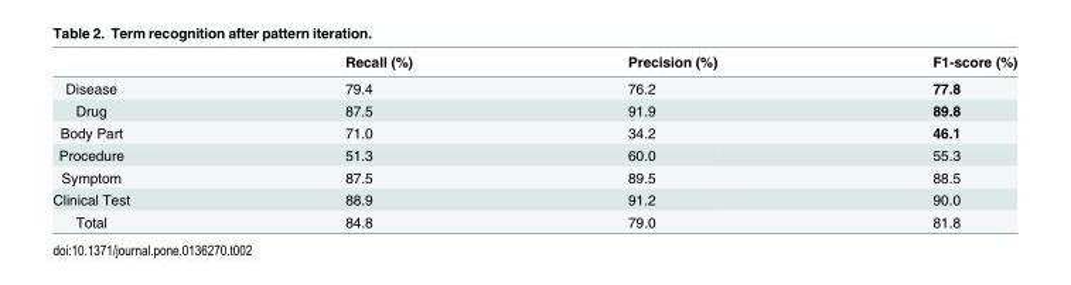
<table><thead><tr><td></td><td>Recall (%)</td><td>Precision (%)</td><td>F1-score (%)</td></tr></thead><tbody><tr><td>Disease</td><td>79.4</td><td>76.2</td><td>77.8</td></tr><tr><td>Drug</td><td>87.5</td><td>91.9</td><td>89.8</td></tr><tr><td>Body Part</td><td>71.0</td><td>34.2</td><td>46.1</td></tr><tr><td>Procedure</td><td>51.3</td><td>60.0</td><td>55.3</td></tr><tr><td>Symptom</td><td>87.5</td><td>89.5</td><td>88.5</td></tr><tr><td>Clinical Test</td><td>88.9</td><td>91.2</td><td>90.0</td></tr><tr><td>Total</td><td>84.8</td><td>79.0</td><td>81.8</td></tr></tbody></table>